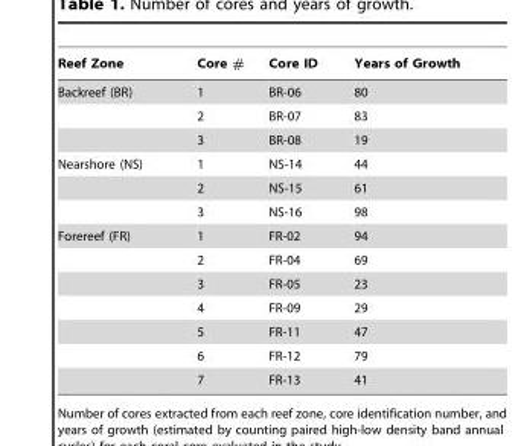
<table><thead><tr><td>Reef Zone</td><td>Core #</td><td>Core ID</td><td>Years of Growth</td></tr></thead><tbody><tr><td rowspan="3">Backreef (BR)</td><td>1</td><td>BR-06</td><td>80</td></tr><tr><td>2</td><td>BR-07</td><td>83</td></tr><tr><td>3</td><td>BR-08</td><td>19</td></tr><tr><td rowspan="3">Nearshore (NS)</td><td>1</td><td>NS-14</td><td>44</td></tr><tr><td>2</td><td>NS-15</td><td>61</td></tr><tr><td>3</td><td>NS-16</td><td>98</td></tr><tr><td rowspan="7">Forereef (FR)</td><td>1</td><td>FR-02</td><td>94</td></tr><tr><td>2</td><td>FR-04</td><td>69</td></tr><tr><td>3</td><td>FR-05</td><td>23</td></tr><tr><td>4</td><td>FR-09</td><td>29</td></tr><tr><td>5</td><td>FR-11</td><td>47</td></tr><tr><td>6</td><td>FR-12</td><td>79</td></tr><tr><td>7</td><td>FR-13</td><td>41</td></tr></tbody></table>